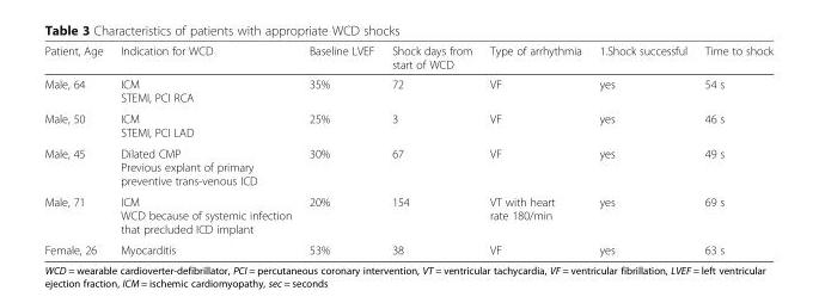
<table><thead><tr><td>Patient, Age</td><td>Indication for WCD</td><td>Baseline LVEF</td><td>Shock days from start of WCD</td><td>Type of arrhythmia</td><td>1.Shock successful</td><td>Time to shock</td></tr></thead><tbody><tr><td>Male, 64</td><td>ICM STEMI, PCI RCA</td><td>35%</td><td>72</td><td>VF</td><td>yes</td><td>54 s</td></tr><tr><td>Male, 50</td><td>ICM STEMI, PCI LAD</td><td>25%</td><td>3</td><td>VF</td><td>yes</td><td>46 s</td></tr><tr><td>Male, 45</td><td>Dilated CMP Previous explant of primary preventive trans-venous ICD</td><td>30%</td><td>67</td><td>VF</td><td>yes</td><td>49 s</td></tr><tr><td>Male, 71</td><td>ICM WCD because of systemic infection that precluded ICD implant</td><td>20%</td><td>154</td><td>VT with heart rate 180/min</td><td>yes</td><td>69 s</td></tr><tr><td>Female, 26</td><td>Myocarditis</td><td>53%</td><td>38</td><td>VF</td><td>yes</td><td>63 s</td></tr></tbody></table>